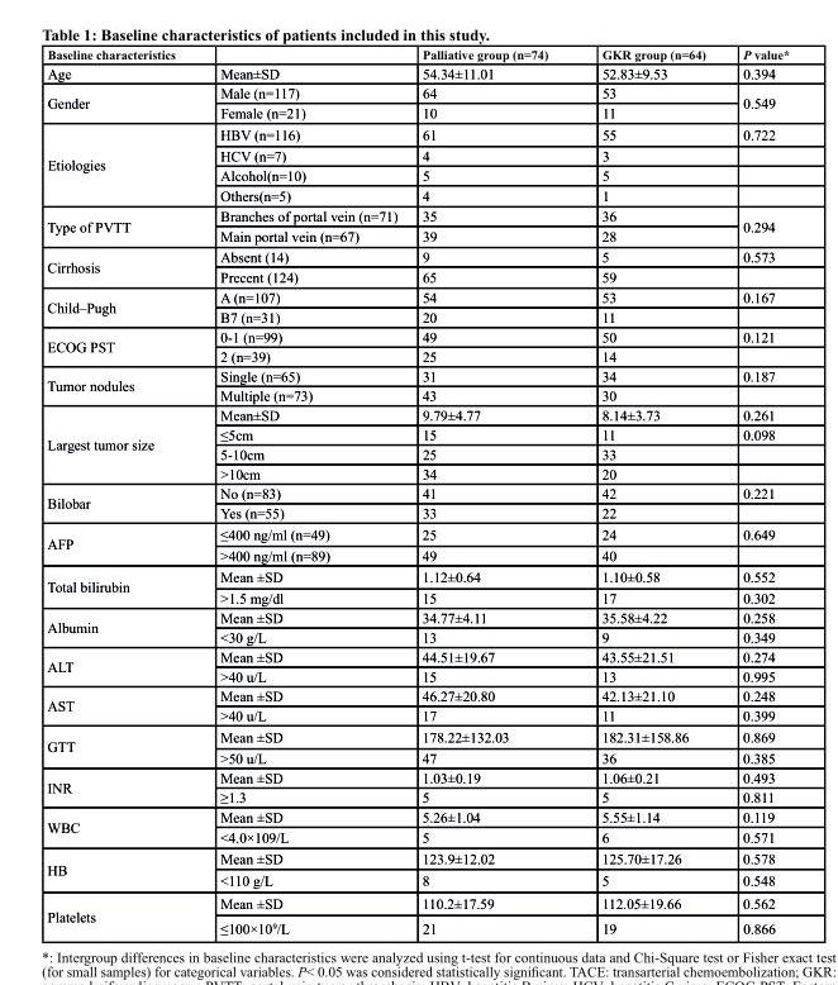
<table><thead><tr><td>baseline characteristics</td><td></td><td>Palliative group (n=74)</td><td>GKr group (n=64)</td><td>P value*</td></tr></thead><tbody><tr><td>Age</td><td>Mean±SD</td><td>54.34±11.01</td><td>52.83±9.53</td><td>0.394</td></tr><tr><td rowspan="2">Gender</td><td>Male (n=117)</td><td>64</td><td>53</td><td rowspan="2">0.549</td></tr><tr><td>Female (n=21)</td><td>10</td><td>11</td></tr><tr><td rowspan="4">Etiologies</td><td>HBV (n=116)</td><td>61</td><td>55</td><td>0.722</td></tr><tr><td>HCV (n=7)</td><td>4</td><td>3</td><td></td></tr><tr><td>Alcohol(n=10)</td><td>5</td><td>5</td><td></td></tr><tr><td>Others(n=5)</td><td>4</td><td>1</td><td></td></tr><tr><td rowspan="2">Type of PVTT</td><td>Branches of portal vein (n=71)</td><td>35</td><td>36</td><td rowspan="2">0.294</td></tr><tr><td>Main portal vein (n=67)</td><td>39</td><td>28</td></tr><tr><td rowspan="2">Cirrhosis</td><td>Absent (14)</td><td>9</td><td>5</td><td>0.573</td></tr><tr><td>Precent (124)</td><td>65</td><td>59</td><td></td></tr><tr><td rowspan="2">Child–Pugh</td><td>A (n=107)</td><td>54</td><td>53</td><td>0.167</td></tr><tr><td>B7 (n=31)</td><td>20</td><td>11</td><td></td></tr><tr><td rowspan="2">ECOG PST</td><td>0-1 (n=99)</td><td>49</td><td>50</td><td>0.121</td></tr><tr><td>2 (n=39)</td><td>25</td><td>14</td><td></td></tr><tr><td rowspan="2">Tumor nodules</td><td>Single (n=65)</td><td>31</td><td>34</td><td>0.187</td></tr><tr><td>Multiple (n=73)</td><td>43</td><td>30</td><td></td></tr><tr><td rowspan="4">Largest tumor size</td><td>Mean±SD</td><td>9.79±4.77</td><td>8.14±3.73</td><td>0.261</td></tr><tr><td>≤5cm</td><td>15</td><td>11</td><td>0.098</td></tr><tr><td>5-10cm</td><td>25</td><td>33</td><td></td></tr><tr><td>&gt;10cm</td><td>34</td><td>20</td><td></td></tr><tr><td rowspan="2">Bilobar</td><td>No (n=83)</td><td>41</td><td>42</td><td>0.221</td></tr><tr><td>Yes (n=55)</td><td>33</td><td>22</td><td></td></tr><tr><td rowspan="2">AFP</td><td>≤400 ng/ml (n=49)</td><td>25</td><td>24</td><td>0.649</td></tr><tr><td>&gt;400 ng/ml (n=89)</td><td>49</td><td>40</td><td></td></tr><tr><td rowspan="2">Total bilirubin</td><td>Mean ±SD</td><td>1.12±0.64</td><td>1.10±0.58</td><td>0.552</td></tr><tr><td>&gt;1.5 mg/dl</td><td>15</td><td>17</td><td>0.302</td></tr><tr><td rowspan="2">Albumin</td><td>Mean ±SD</td><td>34.77±4.11</td><td>35.58±4.22</td><td>0.258</td></tr><tr><td>&lt;30 g/L</td><td>13</td><td>9</td><td>0.349</td></tr><tr><td rowspan="2">ALT</td><td>Mean ±SD</td><td>44.51±19.67</td><td>43.55±21.51</td><td>0.274</td></tr><tr><td>&gt;40 u/L</td><td>15</td><td>13</td><td>0.995</td></tr><tr><td rowspan="2">AST</td><td>Mean ±SD</td><td>46.27±20.80</td><td>42.13±21.10</td><td>0.248</td></tr><tr><td>&gt;40 u/L</td><td>17</td><td>11</td><td>0.399</td></tr><tr><td rowspan="2">GTT</td><td>Mean ±SD</td><td>178.22±132.03</td><td>182.31±158.86</td><td>0.869</td></tr><tr><td>&gt;50 u/L</td><td>47</td><td>36</td><td>0.385</td></tr><tr><td rowspan="2">INR</td><td>Mean ±SD</td><td>1.03±0.19</td><td>1.06±0.21</td><td>0.493</td></tr><tr><td>≥1.3</td><td>5</td><td>5</td><td>0.811</td></tr><tr><td rowspan="2">WBC</td><td>Mean ±SD</td><td>5.26±1.04</td><td>5.55±1.14</td><td>0.119</td></tr><tr><td>&lt;4.0×109/L</td><td>5</td><td>6</td><td>0.571</td></tr><tr><td rowspan="2">HB</td><td>Mean ±SD</td><td>123.9±12.02</td><td>125.70±17.26</td><td>0.578</td></tr><tr><td>&lt;110 g/L</td><td>8</td><td>5</td><td>0.548</td></tr><tr><td rowspan="2">Platelets</td><td>Mean ±SD</td><td>110.2±17.59</td><td>112.05±19.66</td><td>0.562</td></tr><tr><td>≤100×10<sup>9</sup>/L</td><td>21</td><td>19</td><td>0.866</td></tr></tbody></table>